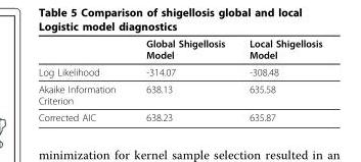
<table><thead><tr><td></td><td>Global Shigellosis Model</td><td>Local Shigellosis Model</td></tr></thead><tbody><tr><td>Log Likelihood</td><td>-314.07</td><td>-308.48</td></tr><tr><td>Akaike Information Criterion</td><td>638.13</td><td>635.58</td></tr><tr><td>Corrected AIC</td><td>638.23</td><td>635.87</td></tr></tbody></table>